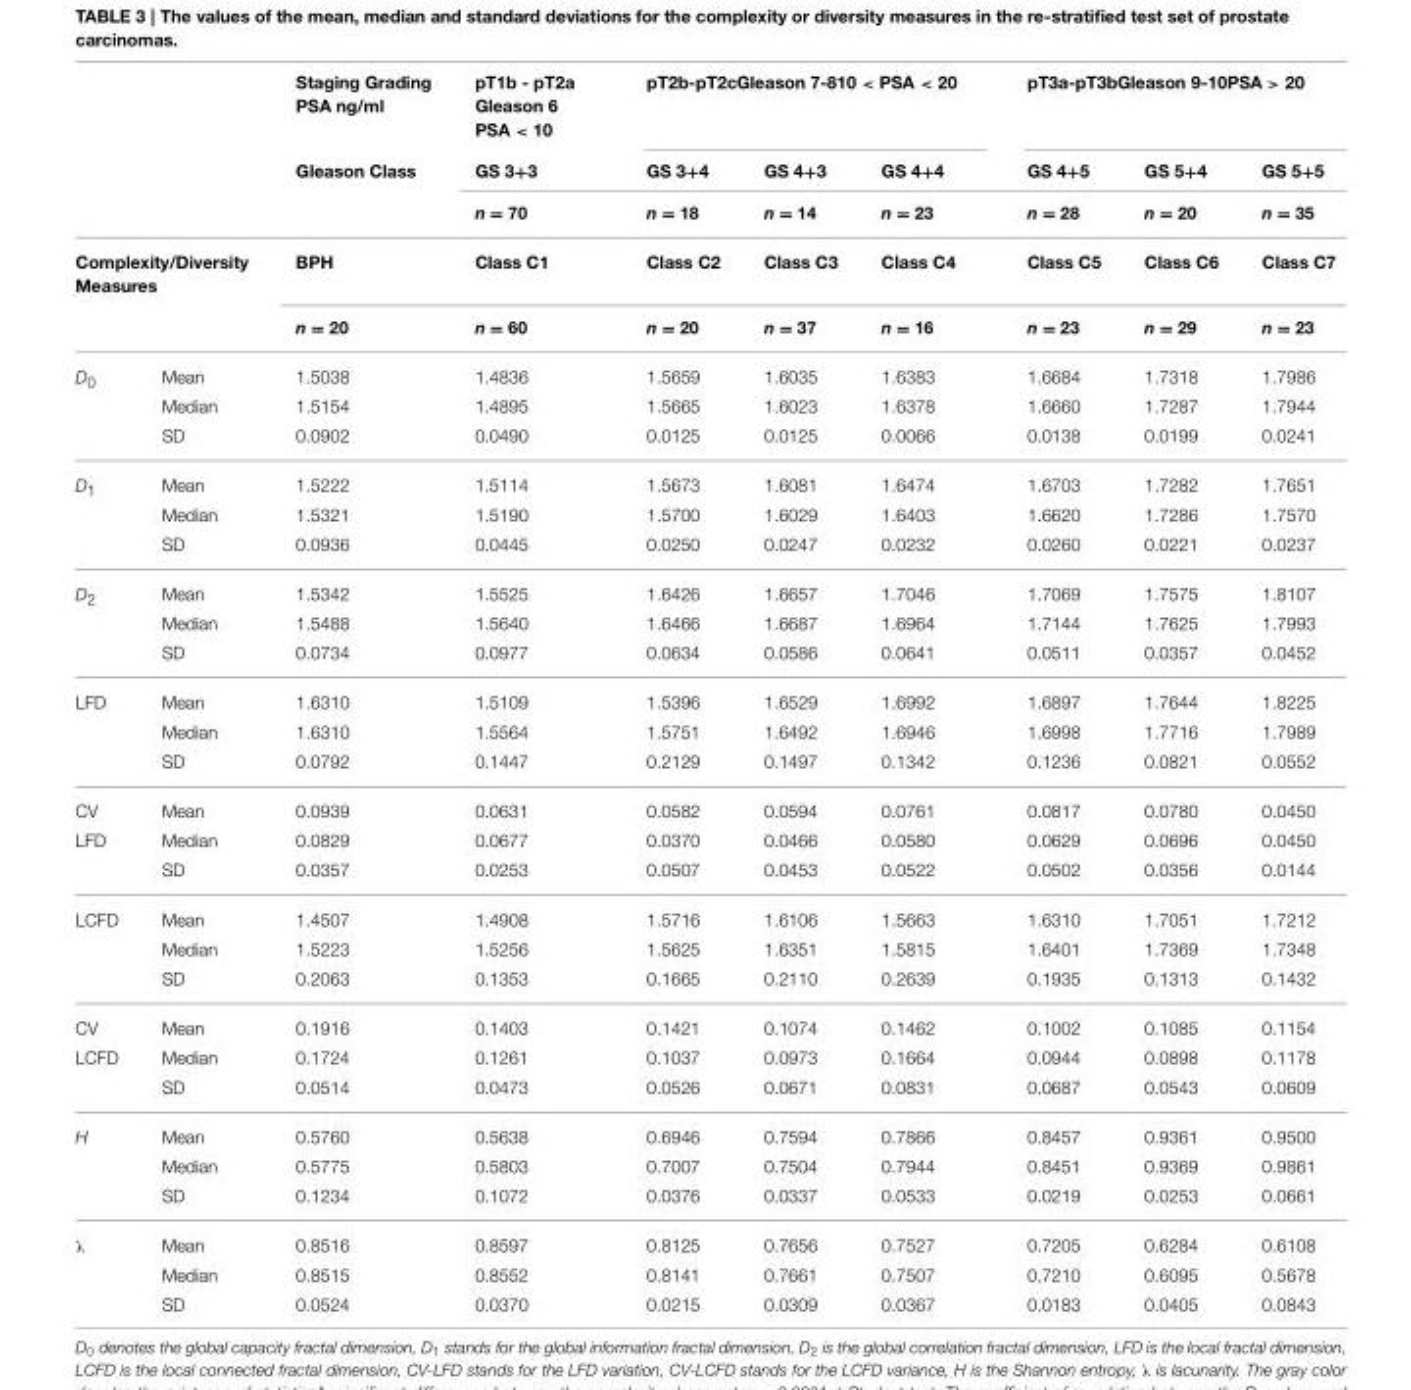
<table><thead><tr><td rowspan="3"></td><td rowspan="3"></td><td rowspan="3">Staging Grading PSA ng/ml Gleason Class</td><td rowspan="3">pT1b - pT2a Gleason 6 PSA &lt; 10 GS 3+3 n = 70</td><td colspan="3">pT2b-pT2cGleason 7-810 &lt; PSA &lt; 20</td><td colspan="3">pT3a-pT3bGleason 9-10PSA &gt; 20</td></tr><tr><td rowspan="2">GS 3+4 n = 18</td><td rowspan="2">GS 4+3 n = 14</td><td rowspan="2">GS 4+4 n = 23</td><td rowspan="2">GS 4+5 n = 28</td><td rowspan="2">GS 5+4 n = 20</td><td rowspan="2">GS 5+5 n = 35</td></tr><tr></tr></thead><tbody><tr><td rowspan="2" colspan="2">Complexity/Diversity Measures</td><td>BPH</td><td>Class C1</td><td>Class C2</td><td>Class C3</td><td>Class C4</td><td>Class C5</td><td>Class C6</td><td>Class C7</td></tr><tr><td>n = 20</td><td>n = 60</td><td>n = 20</td><td>n = 37</td><td>n = 16</td><td>n = 23</td><td>n = 29</td><td>n = 23</td></tr><tr><td rowspan="3">D<sub>0</sub></td><td>Mean</td><td>1.5038</td><td>1.4836</td><td>1.5659</td><td>1.6035</td><td>1.6383</td><td>1.6684</td><td>1.7318</td><td>1.7986</td></tr><tr><td>Median</td><td>1.5154</td><td>1.4895</td><td>1.5665</td><td>1.6023</td><td>1.6378</td><td>1.6660</td><td>1.7287</td><td>1.7944</td></tr><tr><td>SD</td><td>0.0902</td><td>0.0490</td><td>0.0125</td><td>0.0125</td><td>0.0066</td><td>0.0138</td><td>0.0199</td><td>0.0241</td></tr><tr><td rowspan="3">D<sub>1</sub></td><td>Mean</td><td>1.5222</td><td>1.5114</td><td>1.5673</td><td>1.6081</td><td>1.6474</td><td>1.6703</td><td>1.7282</td><td>1.7651</td></tr><tr><td>Median</td><td>1.5321</td><td>1.5190</td><td>1.5700</td><td>1.6029</td><td>1.6403</td><td>1.6620</td><td>1.7286</td><td>1.7570</td></tr><tr><td>SD</td><td>0.0936</td><td>0.0445</td><td>0.0250</td><td>0.0247</td><td>0.0232</td><td>0.0260</td><td>0.0221</td><td>0.0237</td></tr><tr><td rowspan="3">D<sub>2</sub></td><td>Mean</td><td>1.5342</td><td>1.5525</td><td>1.6426</td><td>1.6657</td><td>1.7046</td><td>1.7069</td><td>1.7575</td><td>1.8107</td></tr><tr><td>Median</td><td>1.5488</td><td>1.5640</td><td>1.6466</td><td>1.6687</td><td>1.6964</td><td>1.7144</td><td>1.7625</td><td>1.7993</td></tr><tr><td>SD</td><td>0.0734</td><td>0.0977</td><td>0.0634</td><td>0.0586</td><td>0.0641</td><td>0.0511</td><td>0.0357</td><td>0.0452</td></tr><tr><td rowspan="3">LFD</td><td>Mean</td><td>1.6310</td><td>1.5109</td><td>1.5396</td><td>1.6529</td><td>1.6992</td><td>1.6897</td><td>1.7644</td><td>1.8225</td></tr><tr><td>Median</td><td>1.6310</td><td>1.5564</td><td>1.5751</td><td>1.6492</td><td>1.6946</td><td>1.6998</td><td>1.7716</td><td>1.7989</td></tr><tr><td>SD</td><td>0.0792</td><td>0.1447</td><td>0.2129</td><td>0.1497</td><td>0.1342</td><td>0.1236</td><td>0.0821</td><td>0.0552</td></tr><tr><td>CV</td><td>Mean</td><td>0.0939</td><td>0.0631</td><td>0.0582</td><td>0.0594</td><td>0.0761</td><td>0.0817</td><td>0.0780</td><td>0.0450</td></tr><tr><td rowspan="2">LFD</td><td>Median</td><td>0.0829</td><td>0.0677</td><td>0.0370</td><td>0.0466</td><td>0.0580</td><td>0.0629</td><td>0.0696</td><td>0.0450</td></tr><tr><td>SD</td><td>0.0357</td><td>0.0253</td><td>0.0507</td><td>0.0453</td><td>0.0522</td><td>0.0502</td><td>0.0356</td><td>0.0144</td></tr><tr><td rowspan="3">LCFD</td><td>Mean</td><td>1.4507</td><td>1.4908</td><td>1.5716</td><td>1.6106</td><td>1.5663</td><td>1.6310</td><td>1.7051</td><td>1.7212</td></tr><tr><td>Median</td><td>1.5223</td><td>1.5256</td><td>1.5625</td><td>1.6351</td><td>1.5815</td><td>1.6401</td><td>1.7369</td><td>1.7348</td></tr><tr><td>SD</td><td>0.2063</td><td>0.1353</td><td>0.1665</td><td>0.2110</td><td>0.2639</td><td>0.1935</td><td>0.1313</td><td>0.1432</td></tr><tr><td>CV</td><td>Mean</td><td>0.1916</td><td>0.1403</td><td>0.1421</td><td>0.1074</td><td>0.1462</td><td>0.1002</td><td>0.1085</td><td>0.1154</td></tr><tr><td rowspan="2">LCFD</td><td>Median</td><td>0.1724</td><td>0.1261</td><td>0.1037</td><td>0.0973</td><td>0.1664</td><td>0.0944</td><td>0.0898</td><td>0.1178</td></tr><tr><td>SD</td><td>0.0514</td><td>0.0473</td><td>0.0526</td><td>0.0671</td><td>0.0831</td><td>0.0687</td><td>0.0543</td><td>0.0609</td></tr><tr><td rowspan="3">H</td><td>Mean</td><td>0.5760</td><td>0.5638</td><td>0.6946</td><td>0.7594</td><td>0.7866</td><td>0.8457</td><td>0.9361</td><td>0.9500</td></tr><tr><td>Median</td><td>0.5775</td><td>0.5803</td><td>0.7007</td><td>0.7504</td><td>0.7944</td><td>0.8451</td><td>0.9369</td><td>0.9861</td></tr><tr><td>SD</td><td>0.1234</td><td>0.1072</td><td>0.0376</td><td>0.0337</td><td>0.0533</td><td>0.0219</td><td>0.0253</td><td>0.0661</td></tr><tr><td rowspan="3">λ</td><td>Mean</td><td>0.8516</td><td>0.8597</td><td>0.8125</td><td>0.7656</td><td>0.7527</td><td>0.7205</td><td>0.6284</td><td>0.6108</td></tr><tr><td>Median</td><td>0.8515</td><td>0.8552</td><td>0.8141</td><td>0.7661</td><td>0.7507</td><td>0.7210</td><td>0.6095</td><td>0.5678</td></tr><tr><td>SD</td><td>0.0524</td><td>0.0370</td><td>0.0215</td><td>0.0309</td><td>0.0367</td><td>0.0183</td><td>0.0405</td><td>0.0843</td></tr></tbody></table>